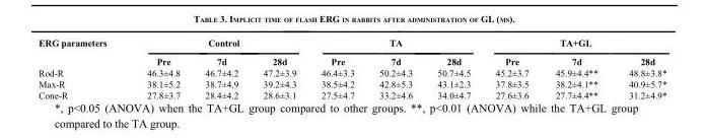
<table><thead><tr><td rowspan="2">ERG parameters</td><td colspan="3">Control</td><td colspan="3">TA</td><td colspan="3">TA+GL</td></tr><tr><td>Pre</td><td>7d</td><td>28d</td><td>Pre</td><td>7d</td><td>28d</td><td>Pre</td><td>7d</td><td>28d</td></tr></thead><tbody><tr><td>Rod-R</td><td>46.3±4.8</td><td>46.7±4.2</td><td>47.2±3.9</td><td>46.4±3.3</td><td>50.2±4.3</td><td>50.7±4.5</td><td>45.2±3.7</td><td>45.9±4.4**</td><td>48.8±3.8*</td></tr><tr><td>Max-R</td><td>38.1±5.2</td><td>38.7±4.9</td><td>39.2±4.3</td><td>38.5±4.2</td><td>42.8±5.3</td><td>43.1±2.3</td><td>37.8±3.5</td><td>38.2±4.1**</td><td>40.9±5.7*</td></tr><tr><td>Cone-R</td><td>27.8±3.7</td><td>28.4±4.2</td><td>28.6±3.1</td><td>27.5±4.7</td><td>33.2±4.6</td><td>34.0±4.7</td><td>27.6±3.6</td><td>27.7±4.4**</td><td>31.2±4.9*</td></tr></tbody></table>